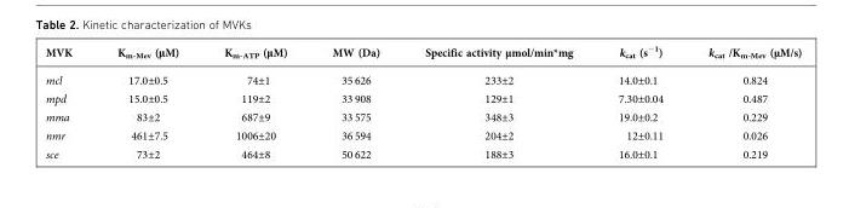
<table><thead><tr><td>MVK</td><td>K<sub>m-Mev</sub> (μM)</td><td>K<sub>m-ATP</sub> (μM)</td><td>MW (Da)</td><td>Specific activity µmol/min*mg</td><td>k<sub>cat</sub> (s<sup>−1</sup>)</td><td>k<sub>cat</sub> /K<sub>m-Mev</sub> (µM/s)</td></tr></thead><tbody><tr><td>mcl</td><td>17.0±0.5</td><td>74±1</td><td>35 626</td><td>233±2</td><td>14.0±0.1</td><td>0.824</td></tr><tr><td>mpd</td><td>15.0±0.5</td><td>119±2</td><td>33 908</td><td>129±1</td><td>7.30±0.04</td><td>0.487</td></tr><tr><td>mma</td><td>83±2</td><td>687±9</td><td>33 575</td><td>348±3</td><td>19.0±0.2</td><td>0.229</td></tr><tr><td>nmr</td><td>461±7.5</td><td>1006±20</td><td>36 594</td><td>204±2</td><td>12±0.11</td><td>0.026</td></tr><tr><td>sce</td><td>73±2</td><td>464±8</td><td>50 622</td><td>188±3</td><td>16.0±0.1</td><td>0.219</td></tr></tbody></table>